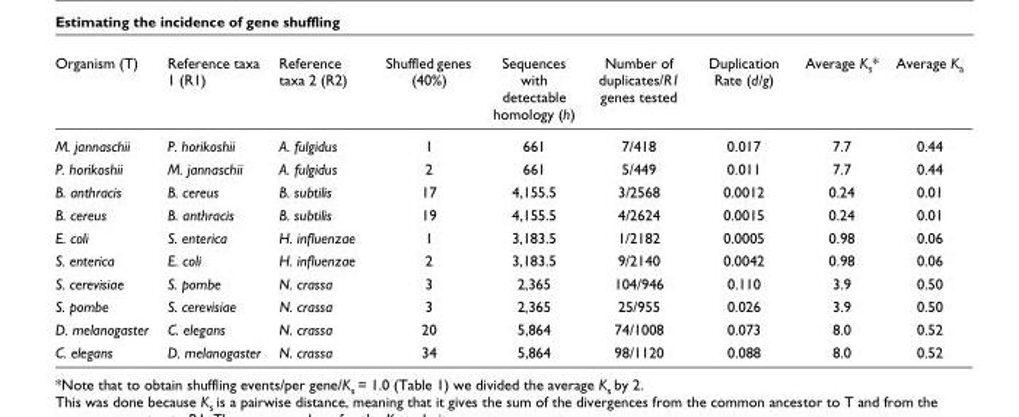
<table><thead><tr><td>Organism (T)</td><td>Reference taxa 1 (R1)</td><td>Reference taxa 2 (R2)</td><td>Shuffled genes (40%)</td><td>Sequences with detectable homology (h)</td><td>Number of duplicates/R1 genes tested</td><td>Duplication Rate (d/g)</td><td>Average Ks*</td><td>Average Ka</td></tr></thead><tbody><tr><td>M. jannaschii</td><td>P. horikoshii</td><td>A. fulgidus</td><td>1</td><td>661</td><td>7/418</td><td>0.017</td><td>7.7</td><td>0.44</td></tr><tr><td>P. horikoshii</td><td>M. jannaschii</td><td>A. fulgidus</td><td>2</td><td>661</td><td>5/449</td><td>0.011</td><td>7.7</td><td>0.44</td></tr><tr><td>B. anthracis</td><td>B. cereus</td><td>B. subtilis</td><td>17</td><td>4,155.5</td><td>3/2568</td><td>0.0012</td><td>0.24</td><td>0.01</td></tr><tr><td>B. cereus</td><td>B. anthracis</td><td>B. subtilis</td><td>19</td><td>4,155.5</td><td>4/2624</td><td>0.0015</td><td>0.24</td><td>0.01</td></tr><tr><td>E. coli</td><td>S. enterica</td><td>H. influenzae</td><td>1</td><td>3,183.5</td><td>1/2182</td><td>0.0005</td><td>0.98</td><td>0.06</td></tr><tr><td>S. enterica</td><td>E. coli</td><td>H. influenzae</td><td>2</td><td>3,183.5</td><td>9/2140</td><td>0.0042</td><td>0.98</td><td>0.06</td></tr><tr><td>S. cerevisiae</td><td>S. pombe</td><td>N. crassa</td><td>3</td><td>2,365</td><td>104/946</td><td>0.110</td><td>3.9</td><td>0.50</td></tr><tr><td>S. pombe</td><td>S. cerevisiae</td><td>N. crassa</td><td>3</td><td>2,365</td><td>25/955</td><td>0.026</td><td>3.9</td><td>0.50</td></tr><tr><td>D. melanogaster</td><td>C. elegans</td><td>N. crassa</td><td>20</td><td>5,864</td><td>74/1008</td><td>0.073</td><td>8.0</td><td>0.52</td></tr><tr><td>C. elegans</td><td>D. melanogaster</td><td>N. crassa</td><td>34</td><td>5,864</td><td>98/1120</td><td>0.088</td><td>8.0</td><td>0.52</td></tr></tbody></table>